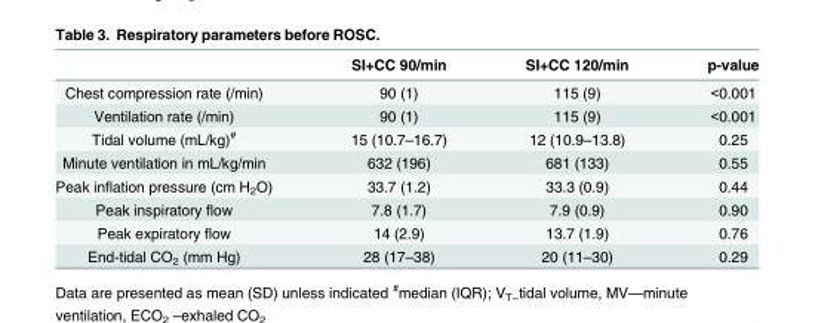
<table><thead><tr><td></td><td>SI+CC 90/min</td><td>SI+CC 120/min</td><td>p-value</td></tr></thead><tbody><tr><td>Chest compression rate (/min)</td><td>90 (1)</td><td>115 (9)</td><td>&lt;0.001</td></tr><tr><td>Ventilation rate (/min)</td><td>90 (1)</td><td>115 (9)</td><td>&lt;0.001</td></tr><tr><td>Tidal volume (mL/kg)<sup>#</sup></td><td>15 (10.7–16.7)</td><td>12 (10.9–13.8)</td><td>0.25</td></tr><tr><td>Minute ventilation in mL/kg/min</td><td>632 (196)</td><td>681 (133)</td><td>0.55</td></tr><tr><td>Peak inflation pressure (cm H<sub>2</sub>O)</td><td>33.7 (1.2)</td><td>33.3 (0.9)</td><td>0.44</td></tr><tr><td>Peak inspiratory flow</td><td>7.8 (1.7)</td><td>7.9 (0.9)</td><td>0.90</td></tr><tr><td>Peak expiratory flow</td><td>14 (2.9)</td><td>13.7 (1.9)</td><td>0.76</td></tr><tr><td>End-tidal CO<sub>2</sub> (mm Hg)</td><td>28 (17–38)</td><td>20 (11–30)</td><td>0.29</td></tr></tbody></table>